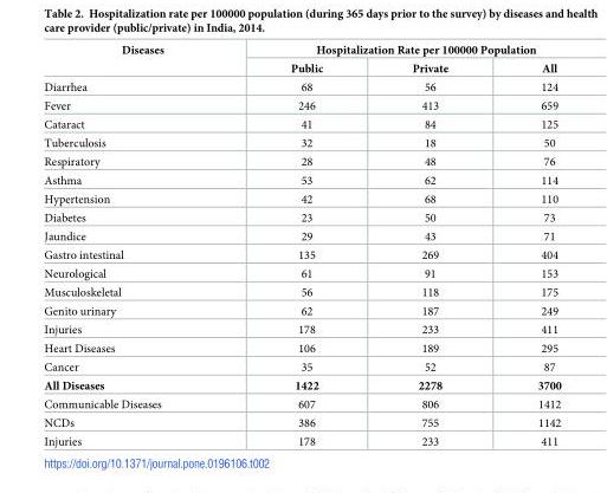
<table><thead><tr><td rowspan="2">Diseases</td><td colspan="3">Hospitalization Rate per 100000 Population</td></tr><tr><td>Public</td><td>Private</td><td>All</td></tr></thead><tbody><tr><td>Diarrhea</td><td>68</td><td>56</td><td>124</td></tr><tr><td>Fever</td><td>246</td><td>413</td><td>659</td></tr><tr><td>Cataract</td><td>41</td><td>84</td><td>125</td></tr><tr><td>Tuberculosis</td><td>32</td><td>18</td><td>50</td></tr><tr><td>Respiratory</td><td>28</td><td>48</td><td>76</td></tr><tr><td>Asthma</td><td>53</td><td>62</td><td>114</td></tr><tr><td>Hypertension</td><td>42</td><td>68</td><td>110</td></tr><tr><td>Diabetes</td><td>23</td><td>50</td><td>73</td></tr><tr><td>Jaundice</td><td>29</td><td>43</td><td>71</td></tr><tr><td>Gastro intestinal</td><td>135</td><td>269</td><td>404</td></tr><tr><td>Neurological</td><td>61</td><td>91</td><td>153</td></tr><tr><td>Musculoskeletal</td><td>56</td><td>118</td><td>175</td></tr><tr><td>Genito urinary</td><td>62</td><td>187</td><td>249</td></tr><tr><td>Injuries</td><td>178</td><td>233</td><td>411</td></tr><tr><td>Heart Diseases</td><td>106</td><td>189</td><td>295</td></tr><tr><td>Cancer</td><td>35</td><td>52</td><td>87</td></tr><tr><td>All Diseases</td><td>1422</td><td>2278</td><td>3700</td></tr><tr><td>Communicable Diseases</td><td>607</td><td>806</td><td>1412</td></tr><tr><td>NCDs</td><td>386</td><td>755</td><td>1142</td></tr><tr><td>Injuries</td><td>178</td><td>233</td><td>411</td></tr></tbody></table>